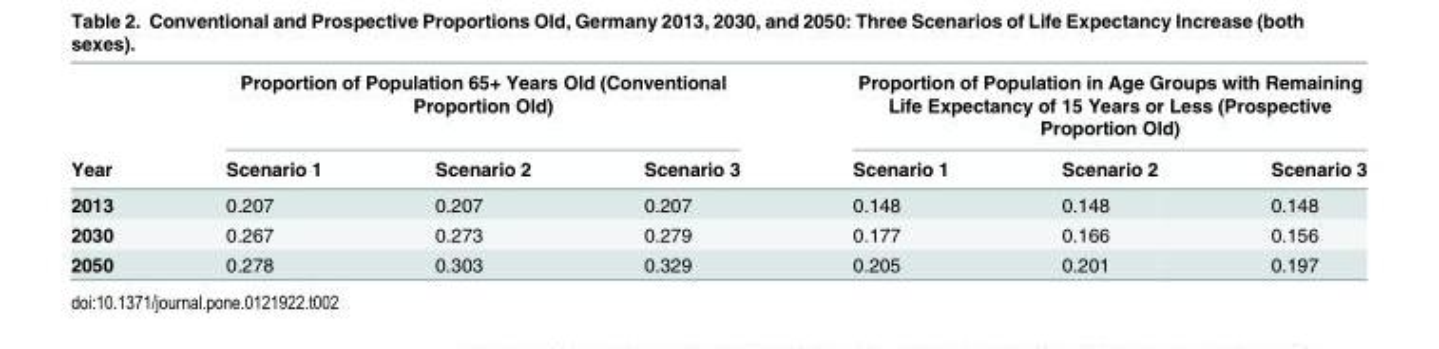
<table><thead><tr><td rowspan="2">Year</td><td colspan="3">Proportion of Population 65+ Years Old (Conventional Proportion Old)</td><td colspan="3">Proportion of Population in Age Groups with Remaining Life Expectancy of 15 Years or Less (Prospective Proportion Old)</td></tr><tr><td>Scenario 1</td><td>Scenario 2</td><td>Scenario 3</td><td>Scenario 1</td><td>Scenario 2</td><td>Scenario 3</td></tr></thead><tbody><tr><td>2013</td><td>0.207</td><td>0.207</td><td>0.207</td><td>0.148</td><td>0.148</td><td>0.148</td></tr><tr><td>2030</td><td>0.267</td><td>0.273</td><td>0.279</td><td>0.177</td><td>0.166</td><td>0.156</td></tr><tr><td>2050</td><td>0.278</td><td>0.303</td><td>0.329</td><td>0.205</td><td>0.201</td><td>0.197</td></tr></tbody></table>